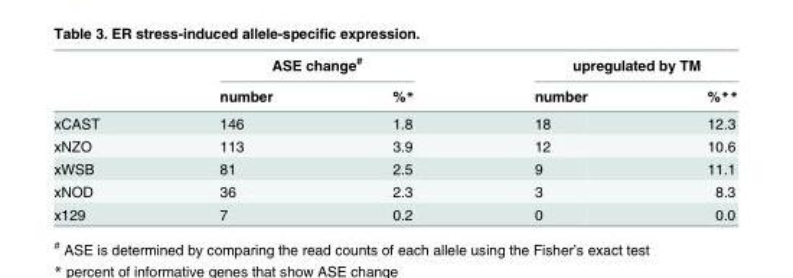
<table><thead><tr><td rowspan="2"></td><td colspan="2">ASE change<sup>#</sup></td><td colspan="2">upregulated by TM</td></tr><tr><td>number</td><td>%*</td><td>number</td><td>%**</td></tr></thead><tbody><tr><td>xCAST</td><td>146</td><td>1.8</td><td>18</td><td>12.3</td></tr><tr><td>xNZO</td><td>113</td><td>3.9</td><td>12</td><td>10.6</td></tr><tr><td>xWSB</td><td>81</td><td>2.5</td><td>9</td><td>11.1</td></tr><tr><td>xNOD</td><td>36</td><td>2.3</td><td>3</td><td>8.3</td></tr><tr><td>x129</td><td>7</td><td>0.2</td><td>0</td><td>0.0</td></tr></tbody></table>